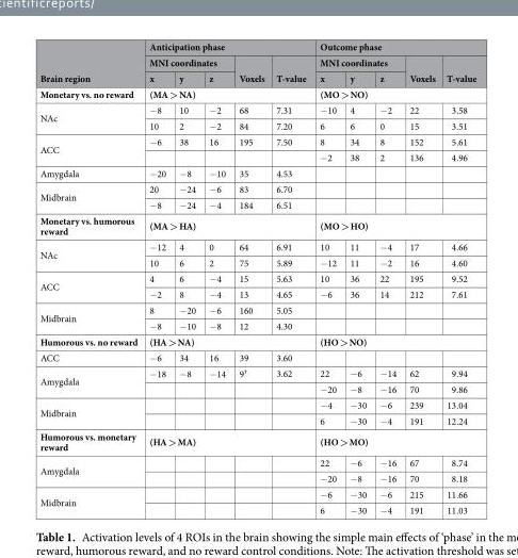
<table><thead><tr><td rowspan="3">Brain region</td><td colspan="5">Anticipation phase</td><td colspan="5">Outcome phase</td></tr><tr><td colspan="3">MNI coordinates</td><td rowspan="2">Voxels</td><td rowspan="2">T-value</td><td colspan="3">MNI coordinates</td><td rowspan="2">Voxels</td><td rowspan="2">T-value</td></tr><tr><td>x</td><td>y</td><td>z</td><td>x</td><td>y</td><td>z</td></tr></thead><tbody><tr><td>Monetary vs. no reward</td><td colspan="5">(MA &gt; NA)</td><td colspan="5">(MO &gt; NO)</td></tr><tr><td rowspan="2">NAc</td><td>−8</td><td>10</td><td>−2</td><td>68</td><td>7.31</td><td>−10</td><td>4</td><td>−2</td><td>22</td><td>3.58</td></tr><tr><td>10</td><td>2</td><td>−2</td><td>84</td><td>7.20</td><td>6</td><td>6</td><td>0</td><td>15</td><td>3.51</td></tr><tr><td rowspan="2">ACC</td><td>−6</td><td>38</td><td>16</td><td>195</td><td>7.50</td><td>8</td><td>34</td><td>8</td><td>152</td><td>5.61</td></tr><tr><td></td><td></td><td></td><td></td><td></td><td>−2</td><td>38</td><td>2</td><td>136</td><td>4.96</td></tr><tr><td>Amygdala</td><td>−20</td><td>−8</td><td>−10</td><td>35</td><td>4.53</td><td></td><td></td><td></td><td></td><td></td></tr><tr><td rowspan="2">Midbrain</td><td>20</td><td>−24</td><td>−6</td><td>83</td><td>6.70</td><td></td><td></td><td></td><td></td><td></td></tr><tr><td>−8</td><td>−24</td><td>−4</td><td>184</td><td>6.51</td><td></td><td></td><td></td><td></td><td></td></tr><tr><td>Monetary vs. humorous reward</td><td colspan="5">(MA &gt; HA)</td><td colspan="5">(MO &gt; HO)</td></tr><tr><td rowspan="2">NAc</td><td>−12</td><td>4</td><td>0</td><td>64</td><td>6.91</td><td>10</td><td>11</td><td>−4</td><td>17</td><td>4.66</td></tr><tr><td>10</td><td>6</td><td>2</td><td>75</td><td>5.89</td><td>−12</td><td>11</td><td>−2</td><td>16</td><td>4.60</td></tr><tr><td rowspan="2">ACC</td><td>4</td><td>6</td><td>−4</td><td>15</td><td>5.63</td><td>10</td><td>36</td><td>22</td><td>195</td><td>9.52</td></tr><tr><td>−2</td><td>8</td><td>−4</td><td>13</td><td>4.65</td><td>−6</td><td>36</td><td>14</td><td>212</td><td>7.61</td></tr><tr><td rowspan="2">Midbrain</td><td>8</td><td>−20</td><td>−6</td><td>160</td><td>5.05</td><td></td><td></td><td></td><td></td><td></td></tr><tr><td>−8</td><td>−10</td><td>−8</td><td>12</td><td>4.30</td><td></td><td></td><td></td><td></td><td></td></tr><tr><td>Humorous vs. no reward</td><td colspan="5">(HA &gt; NA)</td><td colspan="5">(HO &gt; NO)</td></tr><tr><td>ACC</td><td>−6</td><td>34</td><td>16</td><td>39</td><td>3.60</td><td></td><td></td><td></td><td></td><td></td></tr><tr><td rowspan="2">Amygdala</td><td>−18</td><td>−8</td><td>−14</td><td>9<sup>†</sup></td><td>3.62</td><td>22</td><td>−6</td><td>−14</td><td>62</td><td>9.94</td></tr><tr><td></td><td></td><td></td><td></td><td></td><td>−20</td><td>−8</td><td>−16</td><td>70</td><td>9.86</td></tr><tr><td rowspan="2">Midbrain</td><td></td><td></td><td></td><td></td><td></td><td>−4</td><td>−30</td><td>−6</td><td>239</td><td>13.04</td></tr><tr><td></td><td></td><td></td><td></td><td></td><td>6</td><td>−30</td><td>−4</td><td>191</td><td>12.24</td></tr><tr><td>Humorous vs. monetary reward</td><td colspan="5">(HA &gt; MA)</td><td colspan="5">(HO &gt; MO)</td></tr><tr><td rowspan="2">Amygdala</td><td></td><td></td><td></td><td></td><td></td><td>22</td><td>−6</td><td>−16</td><td>67</td><td>8.74</td></tr><tr><td></td><td></td><td></td><td></td><td></td><td>−20</td><td>−8</td><td>−16</td><td>70</td><td>8.18</td></tr><tr><td rowspan="2">Midbrain</td><td></td><td></td><td></td><td></td><td></td><td>−6</td><td>−30</td><td>−6</td><td>215</td><td>11.66</td></tr><tr><td></td><td></td><td></td><td></td><td></td><td>6</td><td>−30</td><td>−4</td><td>191</td><td>11.03</td></tr></tbody></table>